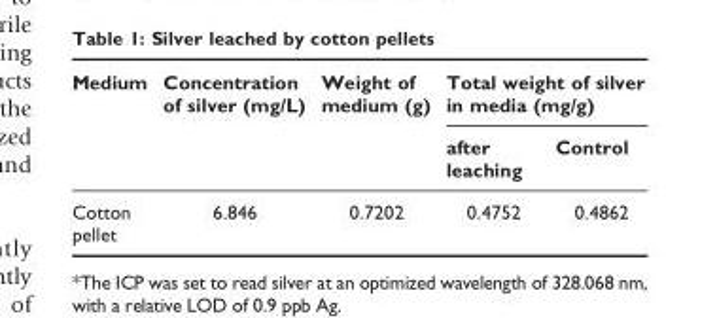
<table><thead><tr><td rowspan="2">Medium</td><td rowspan="2">Concentration of silver (mg/L)</td><td rowspan="2">Weight of medium (g)</td><td colspan="2">Total weight of silver in media (mg/g)</td></tr><tr><td>after leaching</td><td>Control</td></tr></thead><tbody><tr><td>Cotton pellet</td><td>6.846</td><td>0.7202</td><td>0.4752</td><td>0.4862</td></tr></tbody></table>